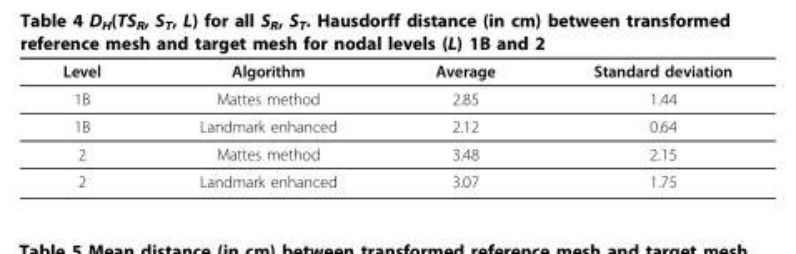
<table><thead><tr><td>Level</td><td>Algorithm</td><td>Average</td><td>Standard deviation</td></tr></thead><tbody><tr><td>1B</td><td>Mattes method</td><td>2.85</td><td>1.44</td></tr><tr><td>1B</td><td>Landmark enhanced</td><td>2.12</td><td>0.64</td></tr><tr><td>2</td><td>Mattes method</td><td>3.48</td><td>2.15</td></tr><tr><td>2</td><td>Landmark enhanced</td><td>3.07</td><td>1.75</td></tr></tbody></table>